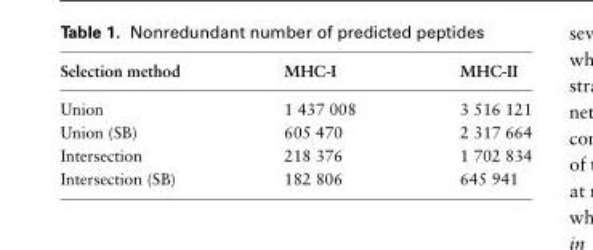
<table><thead><tr><td>Selection method</td><td>MHC-I</td><td>MHC-II</td></tr></thead><tbody><tr><td>Union</td><td>1 437 008</td><td>3 516 121</td></tr><tr><td>Union (SB)</td><td>605 470</td><td>2 317 664</td></tr><tr><td>Intersection</td><td>218 376</td><td>1 702 834</td></tr><tr><td>Intersection (SB)</td><td>182 806</td><td>645 941</td></tr></tbody></table>